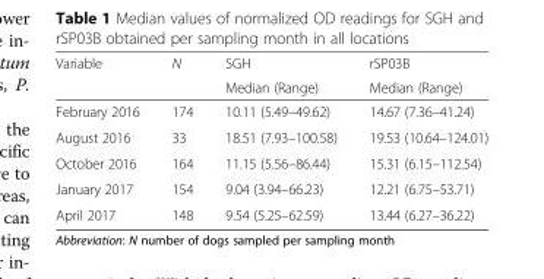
<table><thead><tr><td rowspan="2">Variable</td><td rowspan="2">N</td><td rowspan="2">SGH Median (Range)</td><td rowspan="2">rSP03B Median (Range)</td></tr><tr></tr></thead><tbody><tr><td>February 2016</td><td>174</td><td>10.11 (5.49–49.62)</td><td>14.67 (7.36–41.24)</td></tr><tr><td>August 2016</td><td>33</td><td>18.51 (7.93–100.58)</td><td>19.53 (10.64–124.01)</td></tr><tr><td>October 2016</td><td>164</td><td>11.15 (5.56–86.44)</td><td>15.31 (6.15–112.54)</td></tr><tr><td>January 2017</td><td>154</td><td>9.04 (3.94–66.23)</td><td>12.21 (6.75–53.71)</td></tr><tr><td>April 2017</td><td>148</td><td>9.54 (5.25–62.59)</td><td>13.44 (6.27–36.22)</td></tr></tbody></table>